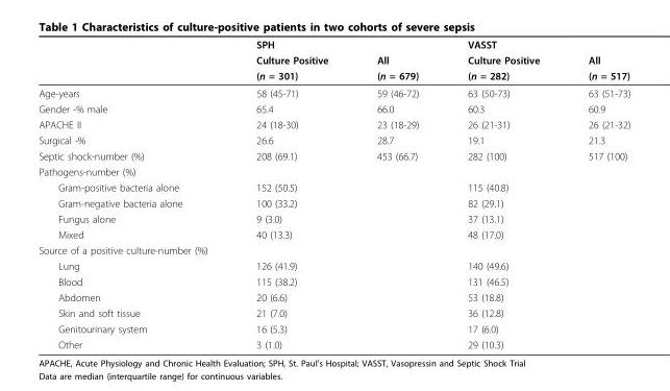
<table><thead><tr><td rowspan="3"></td><td rowspan="3">SPH Culture Positive (n = 301)</td><td rowspan="3">All (n = 679)</td><td rowspan="3">VASST Culture Positive (n = 282)</td><td rowspan="3">All (n = 517)</td></tr><tr></tr><tr></tr></thead><tbody><tr><td>Age-years</td><td>58 (45-71)</td><td>59 (46-72)</td><td>63 (50-73)</td><td>63 (51-73)</td></tr><tr><td>Gender -% male</td><td>65.4</td><td>66.0</td><td>60.3</td><td>60.9</td></tr><tr><td>APACHE II</td><td>24 (18-30)</td><td>23 (18-29)</td><td>26 (21-31)</td><td>26 (21-32)</td></tr><tr><td>Surgical -%</td><td>26.6</td><td>28.7</td><td>19.1</td><td>21.3</td></tr><tr><td>Septic shock-number (%)</td><td>208 (69.1)</td><td>453 (66.7)</td><td>282 (100)</td><td>517 (100)</td></tr><tr><td colspan="5">Pathogens-number (%)</td></tr><tr><td>Gram-positive bacteria alone</td><td>152 (50.5)</td><td></td><td>115 (40.8)</td><td></td></tr><tr><td>Gram-negative bacteria alone</td><td>100 (33.2)</td><td></td><td>82 (29.1)</td><td></td></tr><tr><td>Fungus alone</td><td>9 (3.0)</td><td></td><td>37 (13.1)</td><td></td></tr><tr><td>Mixed</td><td>40 (13.3)</td><td></td><td>48 (17.0)</td><td></td></tr><tr><td colspan="5">Source of a positive culture-number (%)</td></tr><tr><td>Lung</td><td>126 (41.9)</td><td></td><td>140 (49.6)</td><td></td></tr><tr><td>Blood</td><td>115 (38.2)</td><td></td><td>131 (46.5)</td><td></td></tr><tr><td>Abdomen</td><td>20 (6.6)</td><td></td><td>53 (18.8)</td><td></td></tr><tr><td>Skin and soft tissue</td><td>21 (7.0)</td><td></td><td>36 (12.8)</td><td></td></tr><tr><td>Genitourinary system</td><td>16 (5.3)</td><td></td><td>17 (6.0)</td><td></td></tr><tr><td>Other</td><td>3 (1.0)</td><td></td><td>29 (10.3)</td><td></td></tr></tbody></table>